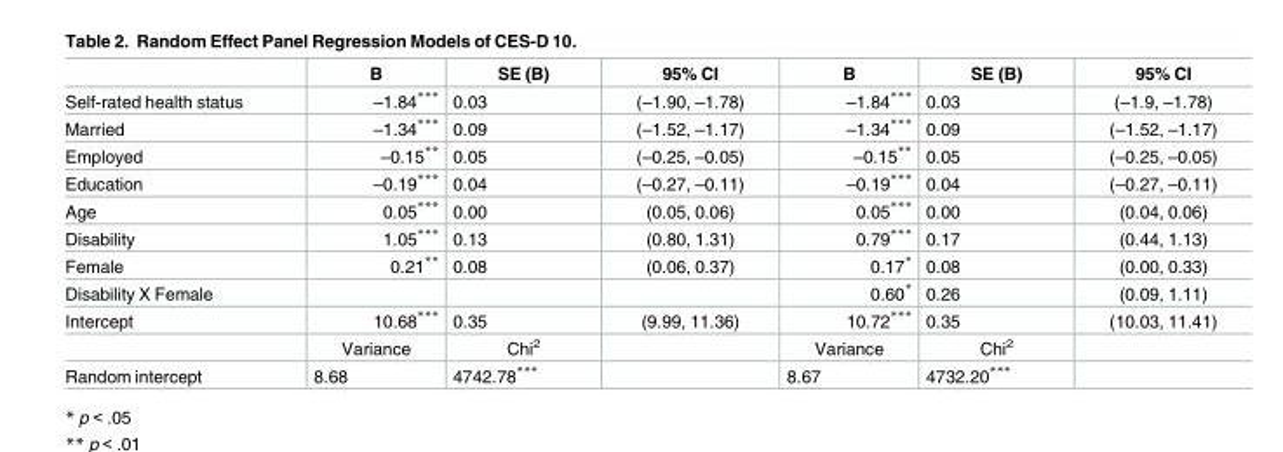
<table><thead><tr><td></td><td>B</td><td>SE (B)</td><td>95% CI</td><td>B</td><td>SE (B)</td><td>95% CI</td></tr></thead><tbody><tr><td>Self-rated health status</td><td>–1.84***</td><td>0.03</td><td>(–1.90, –1.78)</td><td>–1.84***</td><td>0.03</td><td>(–1.9, –1.78)</td></tr><tr><td>Married</td><td>–1.34***</td><td>0.09</td><td>(–1.52, –1.17)</td><td>–1.34***</td><td>0.09</td><td>(–1.52, –1.17)</td></tr><tr><td>Employed</td><td>–0.15**</td><td>0.05</td><td>(–0.25, –0.05)</td><td>–0.15**</td><td>0.05</td><td>(–0.25, –0.05)</td></tr><tr><td>Education</td><td>–0.19***</td><td>0.04</td><td>(–0.27, –0.11)</td><td>–0.19***</td><td>0.04</td><td>(–0.27, –0.11)</td></tr><tr><td>Age</td><td>0.05***</td><td>0.00</td><td>(0.05, 0.06)</td><td>0.05***</td><td>0.00</td><td>(0.04, 0.06)</td></tr><tr><td>Disability</td><td>1.05***</td><td>0.13</td><td>(0.80, 1.31)</td><td>0.79***</td><td>0.17</td><td>(0.44, 1.13)</td></tr><tr><td>Female</td><td>0.21**</td><td>0.08</td><td>(0.06, 0.37)</td><td>0.17*</td><td>0.08</td><td>(0.00, 0.33)</td></tr><tr><td>Disability X Female</td><td></td><td></td><td></td><td>0.60*</td><td>0.26</td><td>(0.09, 1.11)</td></tr><tr><td rowspan="2">Intercept</td><td>10.68***</td><td>0.35</td><td>(9.99, 11.36)</td><td>10.72***</td><td>0.35</td><td>(10.03, 11.41)</td></tr><tr><td>Variance</td><td>Chi<sup>2</sup></td><td></td><td>Variance</td><td>Chi<sup>2</sup></td><td></td></tr><tr><td>Random intercept</td><td>8.68</td><td>4742.78***</td><td></td><td>8.67</td><td>4732.20***</td><td></td></tr></tbody></table>